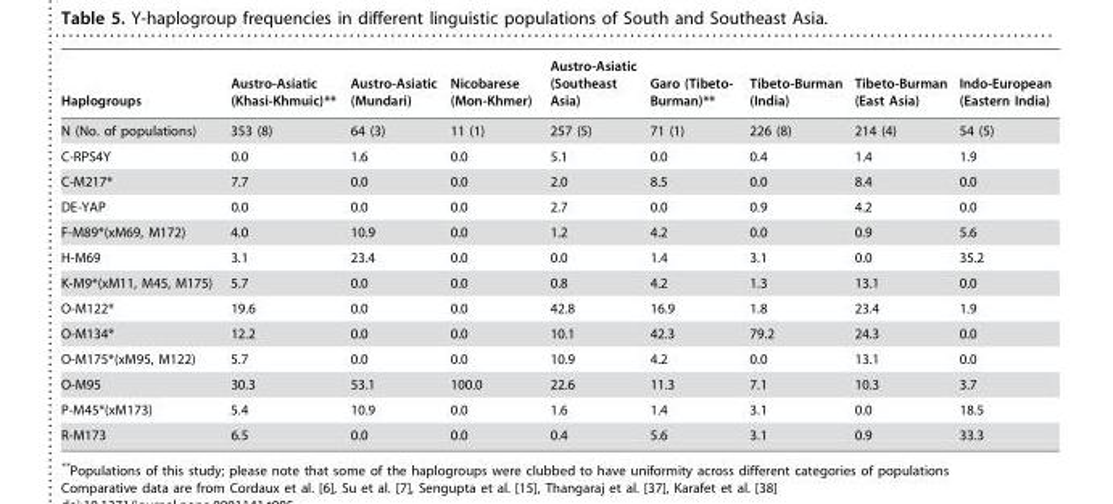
<table><thead><tr><td>Haplogroups</td><td>Austro-Asiatic (Khasi-Khmuic)**</td><td>Austro-Asiatic (Mundari)</td><td>Nicobarese (Mon-Khmer)</td><td>Austro-Asiatic (Southeast Asia)</td><td>Garo (Tibeto- Burman)**</td><td>Tibeto-Burman (India)</td><td>Tibeto-Burman (East Asia)</td><td>Indo-European (Eastern India)</td></tr></thead><tbody><tr><td>N (No. of populations)</td><td>353 (8)</td><td>64 (3)</td><td>11 (1)</td><td>257 (5)</td><td>71 (1)</td><td>226 (8)</td><td>214 (4)</td><td>54 (5)</td></tr><tr><td>C-RPS4Y</td><td>0.0</td><td>1.6</td><td>0.0</td><td>5.1</td><td>0.0</td><td>0.4</td><td>1.4</td><td>1.9</td></tr><tr><td>C-M217*</td><td>7.7</td><td>0.0</td><td>0.0</td><td>2.0</td><td>8.5</td><td>0.0</td><td>8.4</td><td>0.0</td></tr><tr><td>DE-YAP</td><td>0.0</td><td>0.0</td><td>0.0</td><td>2.7</td><td>0.0</td><td>0.9</td><td>4.2</td><td>0.0</td></tr><tr><td>F-M89*(xM69, M172)</td><td>4.0</td><td>10.9</td><td>0.0</td><td>1.2</td><td>4.2</td><td>0.0</td><td>0.9</td><td>5.6</td></tr><tr><td>H-M69</td><td>3.1</td><td>23.4</td><td>0.0</td><td>0.0</td><td>1.4</td><td>3.1</td><td>0.0</td><td>35.2</td></tr><tr><td>K-M9*(xM11, M45, M175)</td><td>5.7</td><td>0.0</td><td>0.0</td><td>0.8</td><td>4.2</td><td>1.3</td><td>13.1</td><td>0.0</td></tr><tr><td>O-M122*</td><td>19.6</td><td>0.0</td><td>0.0</td><td>42.8</td><td>16.9</td><td>1.8</td><td>23.4</td><td>1.9</td></tr><tr><td>O-M134*</td><td>12.2</td><td>0.0</td><td>0.0</td><td>10.1</td><td>42.3</td><td>79.2</td><td>24.3</td><td>0.0</td></tr><tr><td>O-M175*(xM95, M122)</td><td>5.7</td><td>0.0</td><td>0.0</td><td>10.9</td><td>4.2</td><td>0.0</td><td>13.1</td><td>0.0</td></tr><tr><td>O-M95</td><td>30.3</td><td>53.1</td><td>100.0</td><td>22.6</td><td>11.3</td><td>7.1</td><td>10.3</td><td>3.7</td></tr><tr><td>P-M45*(xM173)</td><td>5.4</td><td>10.9</td><td>0.0</td><td>1.6</td><td>1.4</td><td>3.1</td><td>0.0</td><td>18.5</td></tr><tr><td>R-M173</td><td>6.5</td><td>0.0</td><td>0.0</td><td>0.4</td><td>5.6</td><td>3.1</td><td>0.9</td><td>33.3</td></tr></tbody></table>